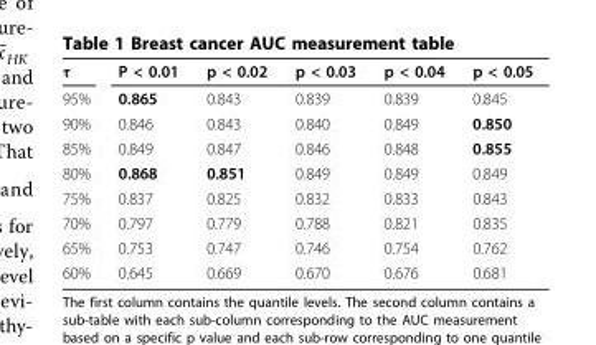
<table><tbody><tr><td>τ</td><td>P &lt; 0.01</td><td>p &lt; 0.02</td><td>p &lt; 0.03</td><td>p &lt; 0.04</td><td>p &lt; 0.05</td></tr><tr><td>95%</td><td>0.865</td><td>0.843</td><td>0.839</td><td>0.839</td><td>0.845</td></tr><tr><td>90%</td><td>0.846</td><td>0.843</td><td>0.840</td><td>0.849</td><td>0.850</td></tr><tr><td>85%</td><td>0.849</td><td>0.847</td><td>0.846</td><td>0.848</td><td>0.855</td></tr><tr><td>80%</td><td>0.868</td><td>0.851</td><td>0.849</td><td>0.849</td><td>0.849</td></tr><tr><td>75%</td><td>0.837</td><td>0.825</td><td>0.832</td><td>0.833</td><td>0.843</td></tr><tr><td>70%</td><td>0.797</td><td>0.779</td><td>0.788</td><td>0.821</td><td>0.835</td></tr><tr><td>65%</td><td>0.753</td><td>0.747</td><td>0.746</td><td>0.754</td><td>0.762</td></tr><tr><td>60%</td><td>0.645</td><td>0.669</td><td>0.670</td><td>0.676</td><td>0.681</td></tr></tbody></table>